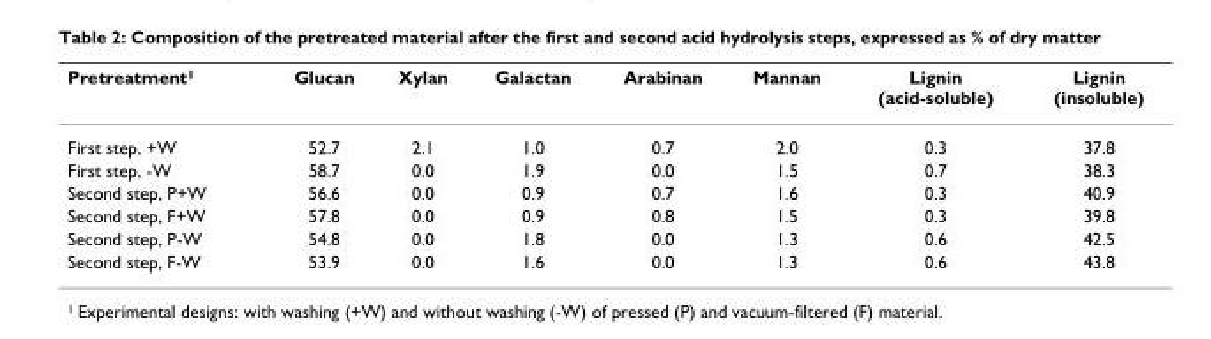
<table><thead><tr><td>Pretreatment<sup>1</sup></td><td>Glucan</td><td>Xylan</td><td>Galactan</td><td>Arabinan</td><td>Mannan</td><td>Lignin (acid-soluble)</td><td>Lignin (insoluble)</td></tr></thead><tbody><tr><td>First step, +W</td><td>52.7</td><td>2.1</td><td>1.0</td><td>0.7</td><td>2.0</td><td>0.3</td><td>37.8</td></tr><tr><td>First step, -W</td><td>58.7</td><td>0.0</td><td>1.9</td><td>0.0</td><td>1.5</td><td>0.7</td><td>38.3</td></tr><tr><td>Second step, P+W</td><td>56.6</td><td>0.0</td><td>0.9</td><td>0.7</td><td>1.6</td><td>0.3</td><td>40.9</td></tr><tr><td>Second step, F+W</td><td>57.8</td><td>0.0</td><td>0.9</td><td>0.8</td><td>1.5</td><td>0.3</td><td>39.8</td></tr><tr><td>Second step, P-W</td><td>54.8</td><td>0.0</td><td>1.8</td><td>0.0</td><td>1.3</td><td>0.6</td><td>42.5</td></tr><tr><td>Second step, F-W</td><td>53.9</td><td>0.0</td><td>1.6</td><td>0.0</td><td>1.3</td><td>0.6</td><td>43.8</td></tr></tbody></table>